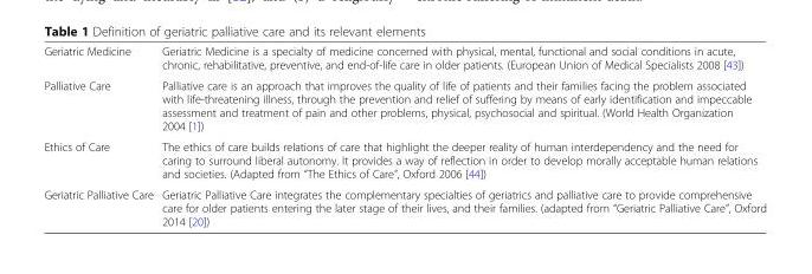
<table><tbody><tr><td>Geriatric Medicine</td><td>Geriatric Medicine is a specialty of medicine concerned with physical, mental, functional and social conditions in acute, chronic, rehabilitative, preventive, and end-of-life care in older patients. (European Union of Medical Specialists 2008 [43])</td></tr><tr><td>Palliative Care</td><td>Palliative care is an approach that improves the quality of life of patients and their families facing the problem associated with life-threatening illness, through the prevention and relief of suffering by means of early identification and impeccable assessment and treatment of pain and other problems, physical, psychosocial and spiritual. (World Health Organization 2004 [1])</td></tr><tr><td>Ethics of Care</td><td>The ethics of care builds relations of care that highlight the deeper reality of human interdependency and the need for caring to surround liberal autonomy. It provides a way of reflection in order to develop morally acceptable human relations and societies. (Adapted from “The Ethics of Care”, Oxford 2006 [44])</td></tr><tr><td>Geriatric Palliative Care</td><td>Geriatric Palliative Care integrates the complementary specialties of geriatrics and palliative care to provide comprehensive care for older patients entering the later stage of their lives, and their families. (adapted from “Geriatric Palliative Care”, Oxford 2014 [20])</td></tr></tbody></table>